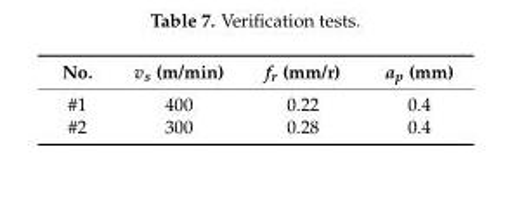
<table><thead><tr><td>No.</td><td>v<sub>s</sub> (m/min)</td><td>f<sub>r</sub> (mm/r)</td><td>a<sub>p</sub> (mm)</td></tr></thead><tbody><tr><td>#1</td><td>400</td><td>0.22</td><td>0.4</td></tr><tr><td>#2</td><td>300</td><td>0.28</td><td>0.4</td></tr></tbody></table>